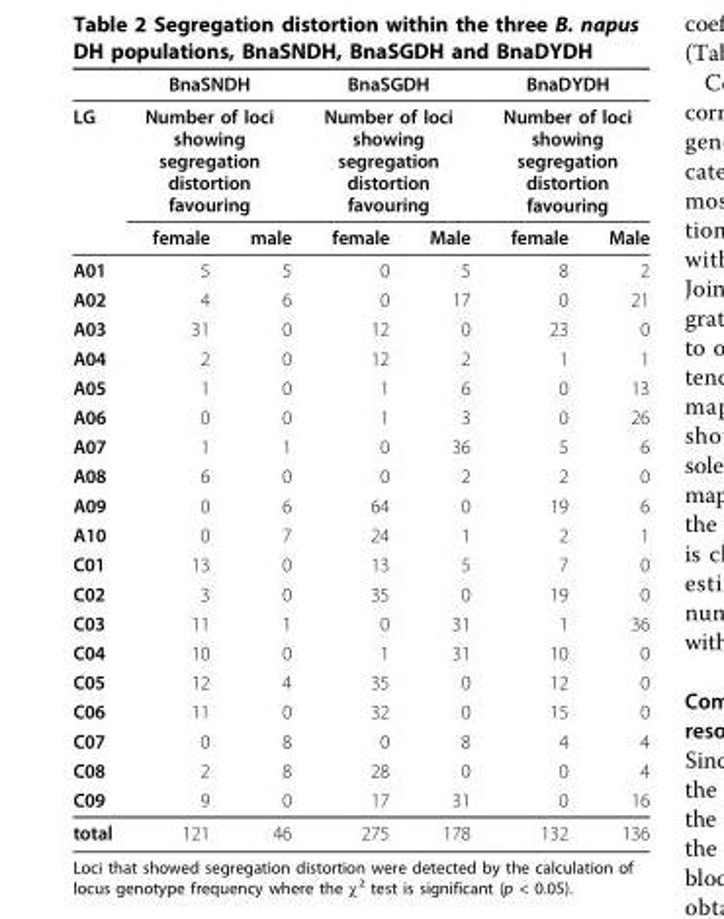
<table><thead><tr><td rowspan="3">LG</td><td rowspan="2" colspan="2">BnaSNDH Number of loci showing segregation distortion favouring</td><td rowspan="2" colspan="2">BnaSGDH Number of loci showing segregation distortion favouring</td><td rowspan="2" colspan="2">BnaDYDH Number of loci showing segregation distortion favouring</td></tr><tr></tr><tr><td>female</td><td>male</td><td>female</td><td>Male</td><td>female</td><td>Male</td></tr></thead><tbody><tr><td>A01</td><td>5</td><td>5</td><td>0</td><td>5</td><td>8</td><td>2</td></tr><tr><td>A02</td><td>4</td><td>6</td><td>0</td><td>17</td><td>0</td><td>21</td></tr><tr><td>A03</td><td>31</td><td>0</td><td>12</td><td>0</td><td>23</td><td>0</td></tr><tr><td>A04</td><td>2</td><td>0</td><td>12</td><td>2</td><td>1</td><td>1</td></tr><tr><td>A05</td><td>1</td><td>0</td><td>1</td><td>6</td><td>0</td><td>13</td></tr><tr><td>A06</td><td>0</td><td>0</td><td>1</td><td>3</td><td>0</td><td>26</td></tr><tr><td>A07</td><td>1</td><td>1</td><td>0</td><td>36</td><td>5</td><td>6</td></tr><tr><td>A08</td><td>6</td><td>0</td><td>0</td><td>2</td><td>2</td><td>0</td></tr><tr><td>A09</td><td>0</td><td>6</td><td>64</td><td>0</td><td>19</td><td>6</td></tr><tr><td>A10</td><td>0</td><td>7</td><td>24</td><td>1</td><td>2</td><td>1</td></tr><tr><td>C01</td><td>13</td><td>0</td><td>13</td><td>5</td><td>7</td><td>0</td></tr><tr><td>C02</td><td>3</td><td>0</td><td>35</td><td>0</td><td>19</td><td>0</td></tr><tr><td>C03</td><td>11</td><td>1</td><td>0</td><td>31</td><td>1</td><td>36</td></tr><tr><td>C04</td><td>10</td><td>0</td><td>1</td><td>31</td><td>10</td><td>0</td></tr><tr><td>C05</td><td>12</td><td>4</td><td>35</td><td>0</td><td>12</td><td>0</td></tr><tr><td>C06</td><td>11</td><td>0</td><td>32</td><td>0</td><td>15</td><td>0</td></tr><tr><td>C07</td><td>0</td><td>8</td><td>0</td><td>8</td><td>4</td><td>4</td></tr><tr><td>C08</td><td>2</td><td>8</td><td>28</td><td>0</td><td>0</td><td>4</td></tr><tr><td>C09</td><td>9</td><td>0</td><td>17</td><td>31</td><td>0</td><td>16</td></tr><tr><td>total</td><td>121</td><td>46</td><td>275</td><td>178</td><td>132</td><td>136</td></tr></tbody></table>